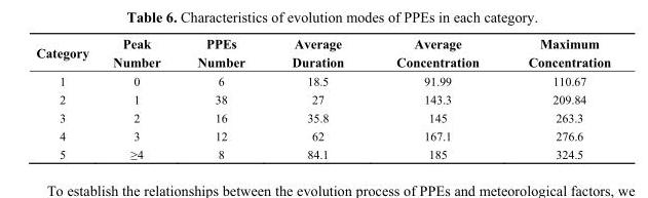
<table><thead><tr><td>Category</td><td>Peak Number</td><td>PPEs Number</td><td>Average Duration</td><td>Average Concentration</td><td>Maximum Concentration</td></tr></thead><tbody><tr><td>1</td><td>0</td><td>6</td><td>18.5</td><td>91.99</td><td>110.67</td></tr><tr><td>2</td><td>1</td><td>38</td><td>27</td><td>143.3</td><td>209.84</td></tr><tr><td>3</td><td>2</td><td>16</td><td>35.8</td><td>145</td><td>263.3</td></tr><tr><td>4</td><td>3</td><td>12</td><td>62</td><td>167.1</td><td>276.6</td></tr><tr><td>5</td><td>≥4</td><td>8</td><td>84.1</td><td>185</td><td>324.5</td></tr></tbody></table>